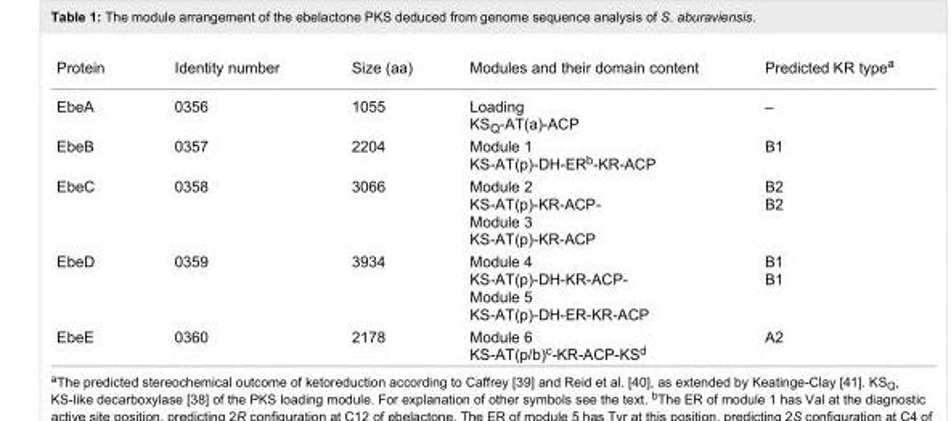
<table><tbody><tr><td>Protein</td><td>Identity number</td><td>Size (aa)</td><td>Modules and their domain content</td><td>Predicted KR type<sup>a</sup></td></tr><tr><td>EbeA</td><td>0356</td><td>1055</td><td>Loading KS<sub>Q</sub>-AT(a)-ACP</td><td>–</td></tr><tr><td>EbeB</td><td>0357</td><td>2204</td><td>Module 1 KS-AT(p)-DH-ER<sup>b</sup>-KR-ACP</td><td>B1</td></tr><tr><td>EbeC</td><td>0358</td><td>3066</td><td>Module 2 KS-AT(p)-KR-ACP- Module 3 KS-AT(p)-KR-ACP</td><td>B2 B2</td></tr><tr><td>EbeD</td><td>0359</td><td>3934</td><td>Module 4 KS-AT(p)-DH-KR-ACP- Module 5 KS-AT(p)-DH-ER-KR-ACP</td><td>B1 B1</td></tr><tr><td>EbeE</td><td>0360</td><td>2178</td><td>Module 6 KS-AT(p/b)<sup>c</sup>-KR-ACP-KS<sup>d</sup></td><td>A2</td></tr></tbody></table>